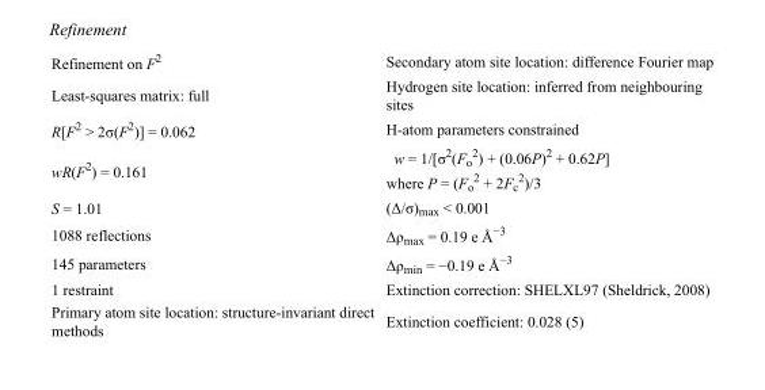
<table><tbody><tr><td>Refinement on F<sup>2</sup></td><td>Secondary atom site location: difference Fourier map</td></tr><tr><td>Least-squares matrix: full</td><td>Hydrogen site location: inferred from neighbouring sites</td></tr><tr><td>R[F<sup>2</sup> &gt; 2σ(F<sup>2</sup>)] = 0.062</td><td>H-atom parameters constrained</td></tr><tr><td>wR(F<sup>2</sup>) = 0.161</td><td>w = 1/[σ<sup>2</sup>(F<sub>o</sub> <sup>2</sup>) + (0.06P)<sup>2</sup> + 0.62P] where P = (F<sub>o</sub> <sup>2</sup> + 2F<sub>c</sub> <sup>2</sup>)/3</td></tr><tr><td>S = 1.01</td><td>(Δ/σ)<sub>max</sub> &lt; 0.001</td></tr><tr><td>1088 reflections</td><td>Δρ<sub>max</sub> = 0.19 e Å<sup>−3</sup></td></tr><tr><td>145 parameters</td><td>Δρ<sub>min</sub> = −0.19 e Å<sup>−3</sup></td></tr><tr><td>1 restraint</td><td>Extinction correction: SHELXL97 (Sheldrick, 2008)</td></tr><tr><td>Primary atom site location: structure-invariant direct methods</td><td>Extinction coefficient: 0.028 (5)</td></tr></tbody></table>